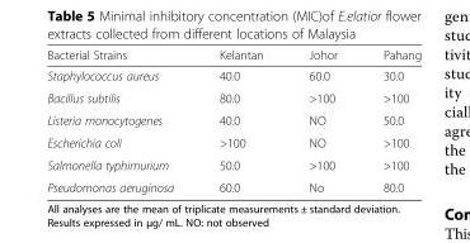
<table><thead><tr><td>Bacterial Strains</td><td>Kelantan</td><td>Johor</td><td>Pahang</td></tr></thead><tbody><tr><td>Staphylococcus aureus</td><td>40.0</td><td>60.0</td><td>30.0</td></tr><tr><td>Bacillus subtilis</td><td>80.0</td><td>&gt;100</td><td>&gt;100</td></tr><tr><td>Listeria monocytogenes</td><td>40.0</td><td>NO</td><td>50.0</td></tr><tr><td>Escherichia coli</td><td>&gt;100</td><td>NO</td><td>&gt;100</td></tr><tr><td>Salmonella typhimurium</td><td>50.0</td><td>&gt;100</td><td>&gt;100</td></tr><tr><td>Pseudomonas aeruginosa</td><td>60.0</td><td>No</td><td>80.0</td></tr></tbody></table>